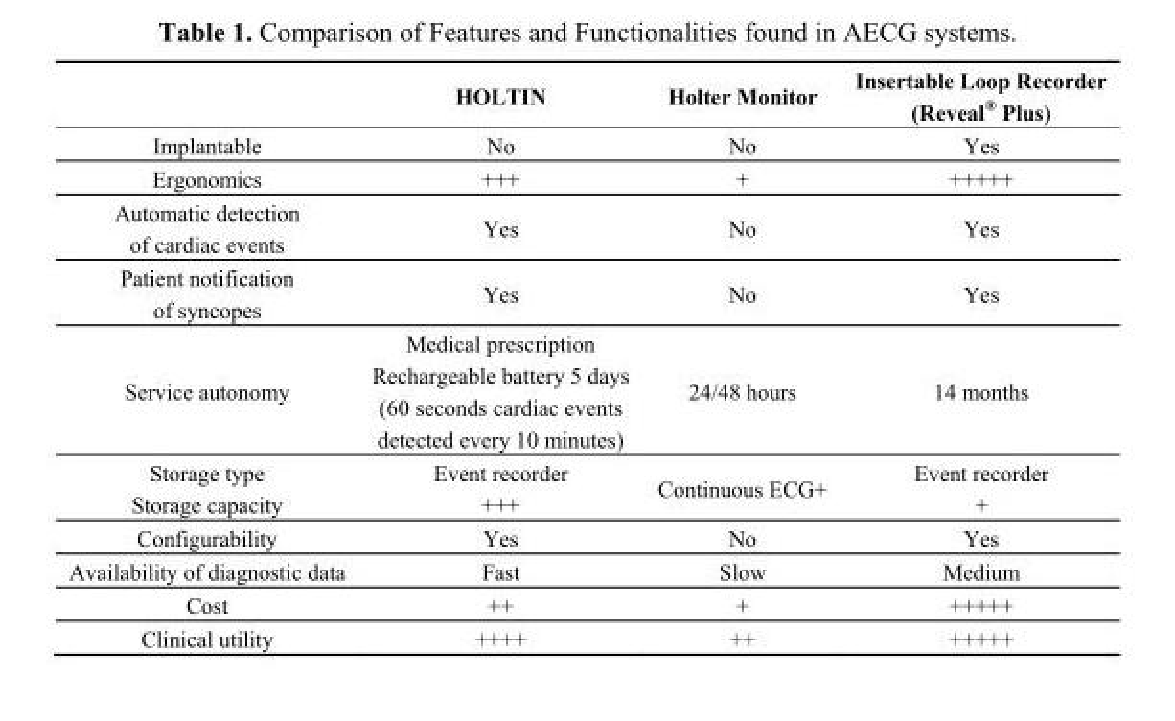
<table><thead><tr><td></td><td>HOLTIN</td><td>Holter Monitor</td><td>Insertable Loop Recorder (Reveal<sup>®</sup> Plus)</td></tr></thead><tbody><tr><td>Implantable</td><td>No</td><td>No</td><td>Yes</td></tr><tr><td>Ergonomics</td><td>+++</td><td>+</td><td>+++++</td></tr><tr><td>Automatic detection of cardiac events</td><td>Yes</td><td>No</td><td>Yes</td></tr><tr><td>Patient notification of syncopes</td><td>Yes</td><td>No</td><td>Yes</td></tr><tr><td>Service autonomy</td><td>Medical prescription Rechargeable battery 5 days (60 seconds cardiac events detected every 10 minutes)</td><td>24/48 hours</td><td>14 months</td></tr><tr><td>Storage type Storage capacity</td><td>Event recorder +++</td><td>Continuous ECG+</td><td>Event recorder +</td></tr><tr><td>Configurability</td><td>Yes</td><td>No</td><td>Yes</td></tr><tr><td>Availability of diagnostic data</td><td>Fast</td><td>Slow</td><td>Medium</td></tr><tr><td>Cost</td><td>++</td><td>+</td><td>+++++</td></tr><tr><td>Clinical utility</td><td>++++</td><td>++</td><td>+++++</td></tr></tbody></table>